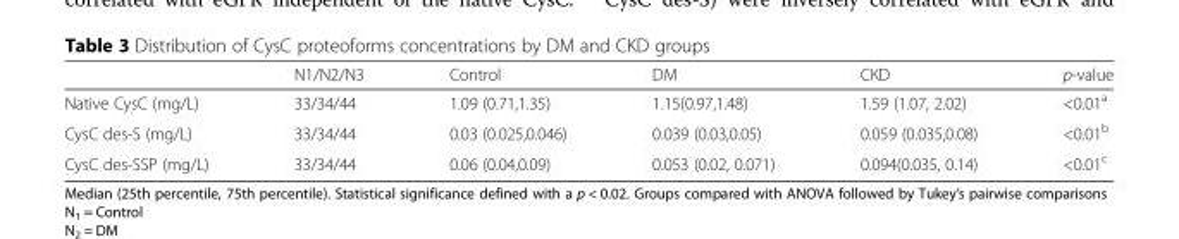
<table><thead><tr><td></td><td>N1/N2/N3</td><td>Control</td><td>DM</td><td>CKD</td><td>p-value</td></tr></thead><tbody><tr><td>Native CysC (mg/L)</td><td>33/34/44</td><td>1.09 (0.71,1.35)</td><td>1.15(0.97,1.48)</td><td>1.59 (1.07, 2.02)</td><td>&lt;0.01<sup>a</sup></td></tr><tr><td>CysC des-S (mg/L)</td><td>33/34/44</td><td>0.03 (0.025,0.046)</td><td>0.039 (0.03,0.05)</td><td>0.059 (0.035,0.08)</td><td>&lt;0.01<sup>b</sup></td></tr><tr><td>CysC des-SSP (mg/L)</td><td>33/34/44</td><td>0.06 (0.04,0.09)</td><td>0.053 (0.02, 0.071)</td><td>0.094(0.035, 0.14)</td><td>&lt;0.01<sup>c</sup></td></tr></tbody></table>